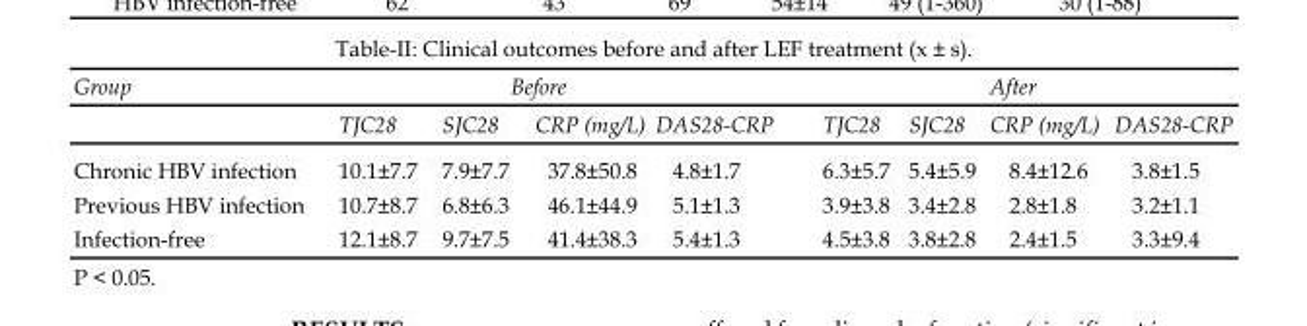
<table><thead><tr><td rowspan="2">Group</td><td colspan="4">Before</td><td colspan="4">After</td></tr><tr><td>TJC28</td><td>SJC28</td><td>CRP (mg/L)</td><td>DAS28-CRP</td><td>TJC28</td><td>SJC28</td><td>CRP (mg/L)</td><td>DAS28-CRP</td></tr></thead><tbody><tr><td>Chronic HBV infection</td><td>10.1±7.7</td><td>7.9±7.7</td><td>37.8±50.8</td><td>4.8±1.7</td><td>6.3±5.7</td><td>5.4±5.9</td><td>8.4±12.6</td><td>3.8±1.5</td></tr><tr><td>Previous HBV infection</td><td>10.7±8.7</td><td>6.8±6.3</td><td>46.1±44.9</td><td>5.1±1.3</td><td>3.9±3.8</td><td>3.4±2.8</td><td>2.8±1.8</td><td>3.2±1.1</td></tr><tr><td>Infection-free</td><td>12.1±8.7</td><td>9.7±7.5</td><td>41.4±38.3</td><td>5.4±1.3</td><td>4.5±3.8</td><td>3.8±2.8</td><td>2.4±1.5</td><td>3.3±9.4</td></tr></tbody></table>